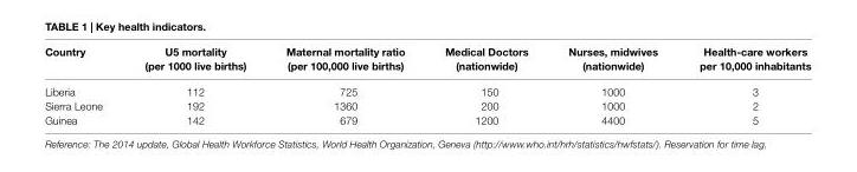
<table><thead><tr><td>country</td><td>U5 mortality (per 1000 live births)</td><td>Maternal mortality ratio (per 100,000 live births)</td><td>Medical Doctors (nationwide)</td><td>nurses, midwives (nationwide)</td><td>health-care workers per 10,000 inhabitants</td></tr></thead><tbody><tr><td>Liberia</td><td>112</td><td>725</td><td>150</td><td>1000</td><td>3</td></tr><tr><td>Sierra Leone</td><td>192</td><td>1360</td><td>200</td><td>1000</td><td>2</td></tr><tr><td>Guinea</td><td>142</td><td>679</td><td>1200</td><td>4400</td><td>5</td></tr></tbody></table>